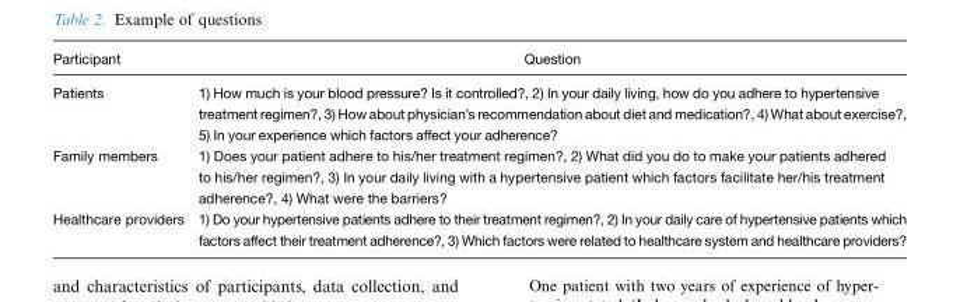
<table><thead><tr><td>Participant</td><td>Question</td></tr></thead><tbody><tr><td>Patients</td><td>1) How much is your blood pressure? Is it controlled?, 2) In your daily living, how do you adhere to hypertensive treatment regimen?, 3) How about physician’s recommendation about diet and medication?, 4) What about exercise?, 5) In your experience which factors affect your adherence?</td></tr><tr><td>Family members</td><td>1) Does your patient adhere to his/her treatment regimen?, 2) What did you do to make your patients adhered to his/her regimen?, 3) In your daily living with a hypertensive patient which factors facilitate her/his treatment adherence?, 4) What were the barriers?</td></tr><tr><td>Healthcare providers</td><td>1) Do your hypertensive patients adhere to their treatment regimen?, 2) In your daily care of hypertensive patients which factors affect their treatment adherence?, 3) Which factors were related to healthcare system and healthcare providers?</td></tr></tbody></table>